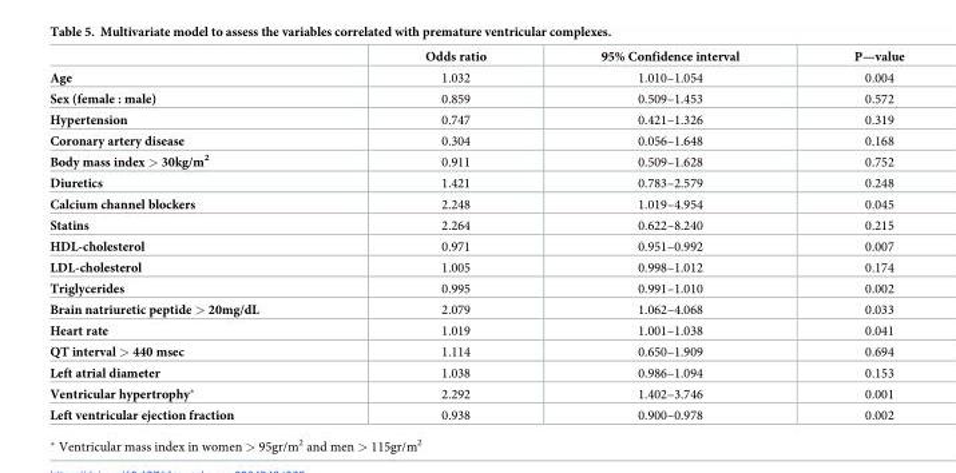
<table><thead><tr><td></td><td>Odds ratio</td><td>95% Confidence interval</td><td>P—value</td></tr></thead><tbody><tr><td>Age</td><td>1.032</td><td>1.010–1.054</td><td>0.004</td></tr><tr><td>Sex (female : male)</td><td>0.859</td><td>0.509–1.453</td><td>0.572</td></tr><tr><td>Hypertension</td><td>0.747</td><td>0.421–1.326</td><td>0.319</td></tr><tr><td>Coronary artery disease</td><td>0.304</td><td>0.056–1.648</td><td>0.168</td></tr><tr><td>Body mass index &gt; 30kg/m<sup>2</sup></td><td>0.911</td><td>0.509–1.628</td><td>0.752</td></tr><tr><td>Diuretics</td><td>1.421</td><td>0.783–2.579</td><td>0.248</td></tr><tr><td>Calcium channel blockers</td><td>2.248</td><td>1.019–4.954</td><td>0.045</td></tr><tr><td>Statins</td><td>2.264</td><td>0.622–8.240</td><td>0.215</td></tr><tr><td>HDL-cholesterol</td><td>0.971</td><td>0.951–0.992</td><td>0.007</td></tr><tr><td>LDL-cholesterol</td><td>1.005</td><td>0.998–1.012</td><td>0.174</td></tr><tr><td>Triglycerides</td><td>0.995</td><td>0.991–1.010</td><td>0.002</td></tr><tr><td>Brain natriuretic peptide &gt; 20mg/dL</td><td>2.079</td><td>1.062–4.068</td><td>0.033</td></tr><tr><td>Heart rate</td><td>1.019</td><td>1.001–1.038</td><td>0.041</td></tr><tr><td>QT interval &gt; 440 msec</td><td>1.114</td><td>0.650–1.909</td><td>0.694</td></tr><tr><td>Left atrial diameter</td><td>1.038</td><td>0.986–1.094</td><td>0.153</td></tr><tr><td>Ventricular hypertrophy*</td><td>2.292</td><td>1.402–3.746</td><td>0.001</td></tr><tr><td>Left ventricular ejection fraction</td><td>0.938</td><td>0.900–0.978</td><td>0.002</td></tr></tbody></table>